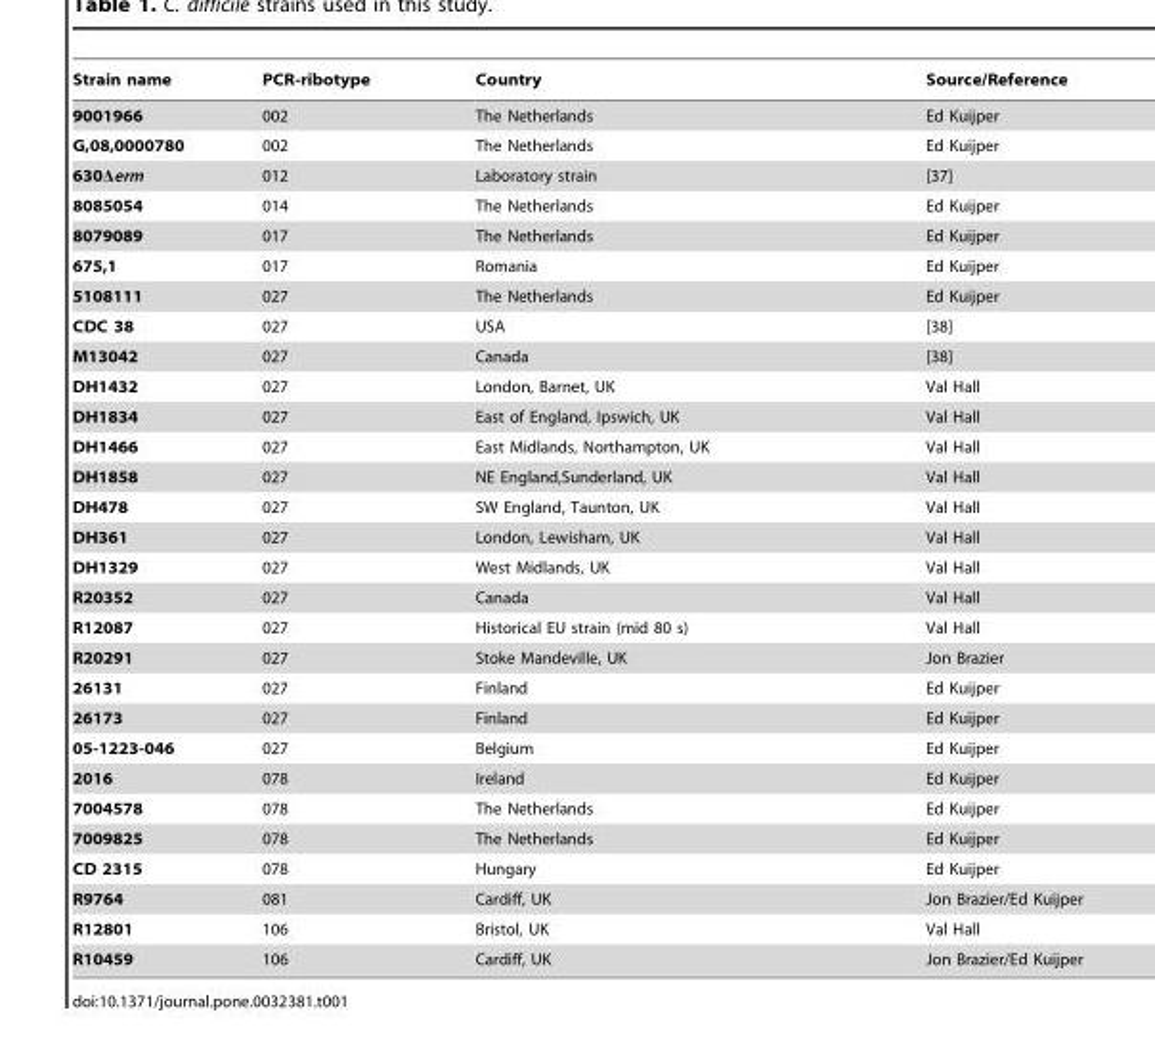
<table><thead><tr><td>Strain name</td><td>PCR-ribotype</td><td>Country</td><td>Source/Reference</td></tr></thead><tbody><tr><td>9001966</td><td>002</td><td>The Netherlands</td><td>Ed Kuijper</td></tr><tr><td>G,08,0000780</td><td>002</td><td>The Netherlands</td><td>Ed Kuijper</td></tr><tr><td>630Δerm</td><td>012</td><td>Laboratory strain</td><td>[37]</td></tr><tr><td>8085054</td><td>014</td><td>The Netherlands</td><td>Ed Kuijper</td></tr><tr><td>8079089</td><td>017</td><td>The Netherlands</td><td>Ed Kuijper</td></tr><tr><td>675,1</td><td>017</td><td>Romania</td><td>Ed Kuijper</td></tr><tr><td>5108111</td><td>027</td><td>The Netherlands</td><td>Ed Kuijper</td></tr><tr><td>CDC 38</td><td>027</td><td>USA</td><td>[38]</td></tr><tr><td>M13042</td><td>027</td><td>Canada</td><td>[38]</td></tr><tr><td>DH1432</td><td>027</td><td>London, Barnet, UK</td><td>Val Hall</td></tr><tr><td>DH1834</td><td>027</td><td>East of England, Ipswich, UK</td><td>Val Hall</td></tr><tr><td>DH1466</td><td>027</td><td>East Midlands, Northampton, UK</td><td>Val Hall</td></tr><tr><td>DH1858</td><td>027</td><td>NE England,Sunderland, UK</td><td>Val Hall</td></tr><tr><td>DH478</td><td>027</td><td>SW England, Taunton, UK</td><td>Val Hall</td></tr><tr><td>DH361</td><td>027</td><td>London, Lewisham, UK</td><td>Val Hall</td></tr><tr><td>DH1329</td><td>027</td><td>West Midlands, UK</td><td>Val Hall</td></tr><tr><td>R20352</td><td>027</td><td>Canada</td><td>Val Hall</td></tr><tr><td>R12087</td><td>027</td><td>Historical EU strain (mid 80 s)</td><td>Val Hall</td></tr><tr><td>R20291</td><td>027</td><td>Stoke Mandeville, UK</td><td>Jon Brazier</td></tr><tr><td>26131</td><td>027</td><td>Finland</td><td>Ed Kuijper</td></tr><tr><td>26173</td><td>027</td><td>Finland</td><td>Ed Kuijper</td></tr><tr><td>05-1223-046</td><td>027</td><td>Belgium</td><td>Ed Kuijper</td></tr><tr><td>2016</td><td>078</td><td>Ireland</td><td>Ed Kuijper</td></tr><tr><td>7004578</td><td>078</td><td>The Netherlands</td><td>Ed Kuijper</td></tr><tr><td>7009825</td><td>078</td><td>The Netherlands</td><td>Ed Kuijper</td></tr><tr><td>CD 2315</td><td>078</td><td>Hungary</td><td>Ed Kuijper</td></tr><tr><td>R9764</td><td>081</td><td>Cardiff, UK</td><td>Jon Brazier/Ed Kuijper</td></tr><tr><td>R12801</td><td>106</td><td>Bristol, UK</td><td>Val Hall</td></tr><tr><td>R10459</td><td>106</td><td>Cardiff, UK</td><td>Jon Brazier/Ed Kuijper</td></tr></tbody></table>